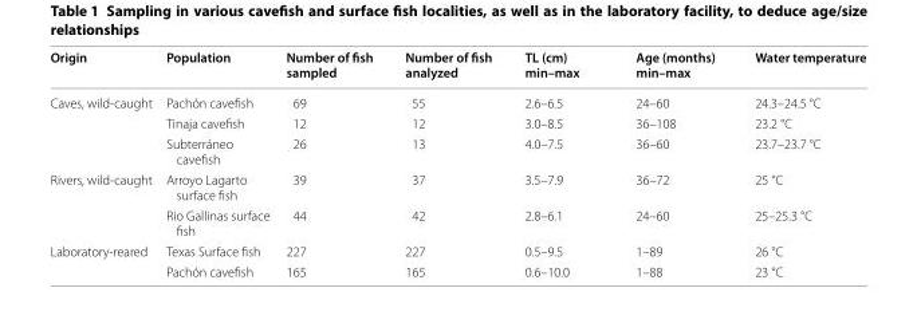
<table><thead><tr><td>Origin</td><td>Population</td><td>Number of fish sampled</td><td>Number of fish analyzed</td><td>TL (cm) min–max</td><td>Age (months) min–max</td><td>Water temperature</td></tr></thead><tbody><tr><td rowspan="3">Caves, wild‑caught</td><td>Pachón cavefish</td><td>69</td><td>55</td><td>2.6–6.5</td><td>24–60</td><td>24.3–24.5 °C</td></tr><tr><td>Tinaja cavefish</td><td>12</td><td>12</td><td>3.0–8.5</td><td>36–108</td><td>23.2 °C</td></tr><tr><td>Subterráneo cavefish</td><td>26</td><td>13</td><td>4.0–7.5</td><td>36–60</td><td>23.7–23.7 °C</td></tr><tr><td rowspan="2">Rivers, wild‑caught</td><td>Arroyo Lagarto surface fish</td><td>39</td><td>37</td><td>3.5–7.9</td><td>36–72</td><td>25 °C</td></tr><tr><td>Rio Gallinas surface fish</td><td>44</td><td>42</td><td>2.8–6.1</td><td>24–60</td><td>25–25.3 °C</td></tr><tr><td rowspan="2">Laboratory‑reared</td><td>Texas Surface fish</td><td>227</td><td>227</td><td>0.5–9.5</td><td>1–89</td><td>26 °C</td></tr><tr><td>Pachón cavefish</td><td>165</td><td>165</td><td>0.6–10.0</td><td>1–88</td><td>23 °C</td></tr></tbody></table>